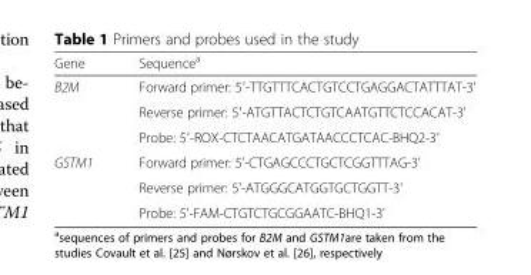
<table><thead><tr><td>Gene</td><td>Sequence<sup>a</sup></td></tr></thead><tbody><tr><td rowspan="3">B2M</td><td>Forward primer: 5′-TTGTTTCACTGTCCTGAGGACTATTTAT-3′</td></tr><tr><td>Reverse primer: 5′-ATGTTACTCTGTCAATGTTCTCCACAT-3&#x27;</td></tr><tr><td>Probe: 5′-ROX-CTCTAACATGATAACCCTCAC-BHQ2-3′</td></tr><tr><td rowspan="3">GSTM1</td><td>Forward primer: 5&#x27;-CTGAGCCCTGCTCGGTTTAG-3&#x27;</td></tr><tr><td>Reverse primer: 5&#x27;-ATGGGCATGGTGCTGGTT-3&#x27;</td></tr><tr><td>Probe: 5&#x27;-FAM-CTGTCTGCGGAATC-BHQ1-3&#x27;</td></tr></tbody></table>